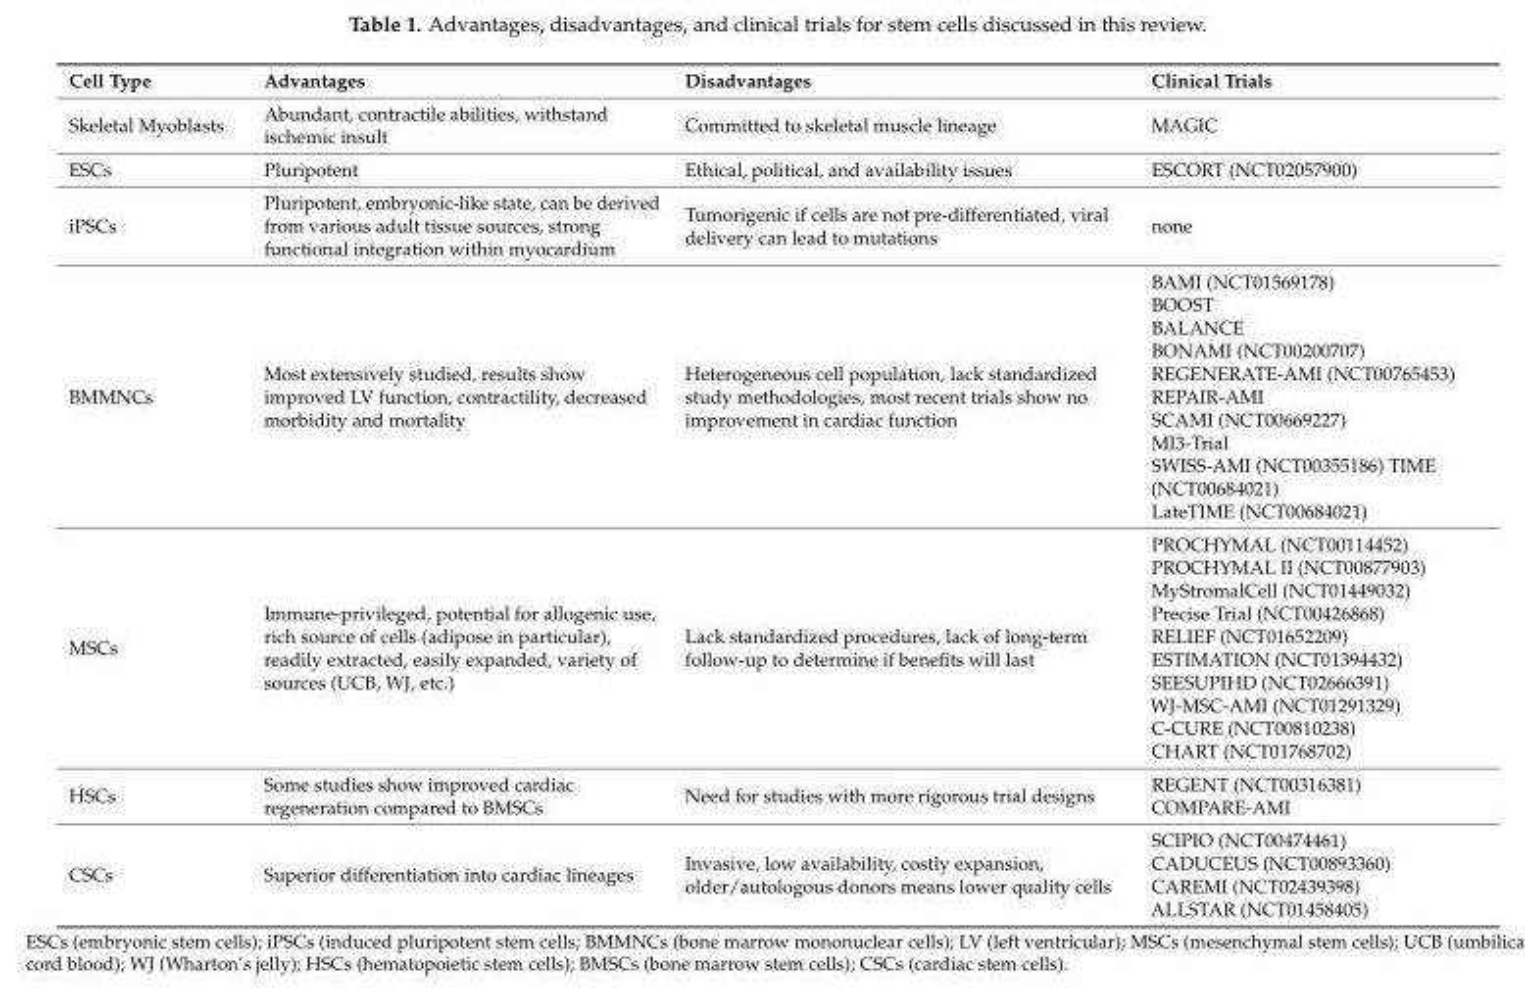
<table><thead><tr><td>Cell Type</td><td>Advantages</td><td>Disadvantages</td><td>Clinical Trials</td></tr></thead><tbody><tr><td>Skeletal Myoblasts</td><td>Abundant, contractile abilities, withstand ischemic insult</td><td>Committed to skeletal muscle lineage</td><td>MAGIC</td></tr><tr><td>ESCs</td><td>Pluripotent</td><td>Ethical, political, and availability issues</td><td>ESCORT (NCT02057900)</td></tr><tr><td>iPSCs</td><td>Pluripotent, embryonic-like state, can be derived from various adult tissue sources, strong functional integration within myocardium</td><td>Tumorigenic if cells are not pre-differentiated, viral delivery can lead to mutations</td><td>none</td></tr><tr><td>BMMNCs</td><td>Most extensively studied, results show improved LV function, contractility, decreased morbidity and mortality</td><td>Heterogeneous cell population, lack standardized study methodologies, most recent trials show no improvement in cardiac function</td><td>BAMI (NCT01569178) BOOST BALANCE BONAMI (NCT00200707) REGENERATE-AMI (NCT00765453) REPAIR-AMI SCAMI (NCT00669227) MI3-Trial SWISS-AMI (NCT00355186) TIME (NCT00684021) LateTIME (NCT00684021)</td></tr><tr><td>MSCs</td><td>Immune-privileged, potential for allogenic use, rich source of cells (adipose in particular), readily extracted, easily expanded, variety of sources (UCB, WJ, etc.)</td><td>Lack standardized procedures, lack of long-term follow-up to determine if benefits will last</td><td>PROCHYMAL (NCT00114452) PROCHYMAL II (NCT00877903) MyStromalCell (NCT01449032) Precise Trial (NCT00426868) RELIEF (NCT01652209) ESTIMATION (NCT01394432) SEESUPIHD (NCT02666391) WJ-MSC-AMI (NCT01291329) C-CURE (NCT00810238) CHART (NCT01768702)</td></tr><tr><td>HSCs</td><td>Some studies show improved cardiac regeneration compared to BMSCs</td><td>Need for studies with more rigorous trial designs</td><td>REGENT (NCT00316381) COMPARE-AMI</td></tr><tr><td>CSCs</td><td>Superior differentiation into cardiac lineages</td><td>Invasive, low availability, costly expansion, older/autologous donors means lower quality cells</td><td>SCIPIO (NCT00474461) CADUCEUS (NCT00893360) CAREMI (NCT02439398) ALLSTAR (NCT01458405)</td></tr></tbody></table>